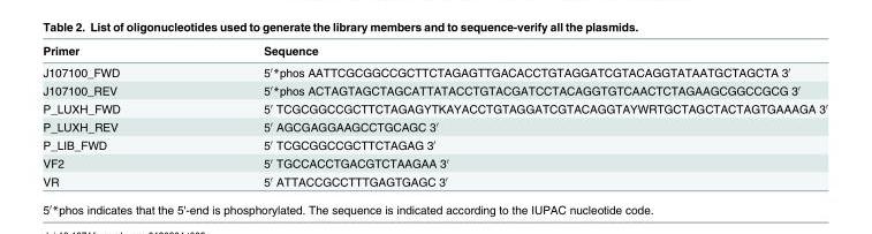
<table><thead><tr><td>Primer</td><td>Sequence</td></tr></thead><tbody><tr><td>J107100_FWD</td><td>5′*phos AATTCGCGGCCGCTTCTAGAGTTGACACCTGTAGGATCGTACAGGTATAATGCTAGCTA 3′</td></tr><tr><td>J107100_REV</td><td>5′*phos ACTAGTAGCTAGCATTATACCTGTACGATCCTACAGGTGTCAACTCTAGAAGCGGCCGCG 3′</td></tr><tr><td>P_LUXH_FWD</td><td>5′ TCGCGGCCGCTTCTAGAGYTKAYACCTGTAGGATCGTACAGGTAYWRTGCTAGCTACTAGTGAAAGA 3′</td></tr><tr><td>P_LUXH_REV</td><td>5′ AGCGAGGAAGCCTGCAGC 3′</td></tr><tr><td>P_LIB_FWD</td><td>5′ TCGCGGCCGCTTCTAGAG 3′</td></tr><tr><td>VF2</td><td>5′ TGCCACCTGACGTCTAAGAA 3′</td></tr><tr><td>VR</td><td>5′ ATTACCGCCTTTGAGTGAGC 3′</td></tr></tbody></table>